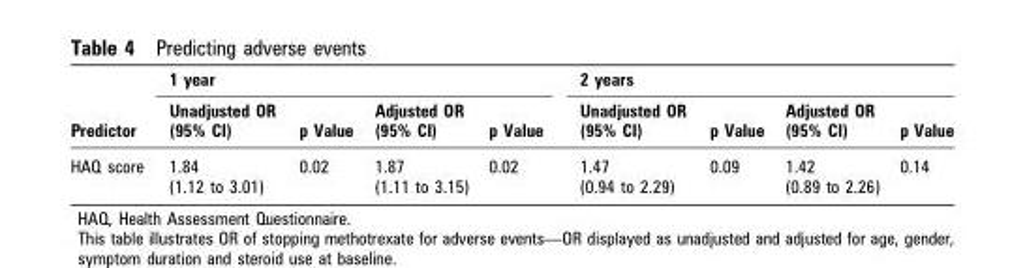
<table><thead><tr><td rowspan="2">Predictor</td><td colspan="4">1 year</td><td colspan="4">2 years</td></tr><tr><td>Unadjusted OR (95% CI)</td><td>p Value</td><td>Adjusted OR (95% CI)</td><td>p Value</td><td>Unadjusted OR (95% CI)</td><td>p Value</td><td>Adjusted OR (95% CI)</td><td>p Value</td></tr></thead><tbody><tr><td>HAQ score</td><td>1.84 (1.12 to 3.01)</td><td>0.02</td><td>1.87 (1.11 to 3.15)</td><td>0.02</td><td>1.47 (0.94 to 2.29)</td><td>0.09</td><td>1.42 (0.89 to 2.26)</td><td>0.14</td></tr></tbody></table>